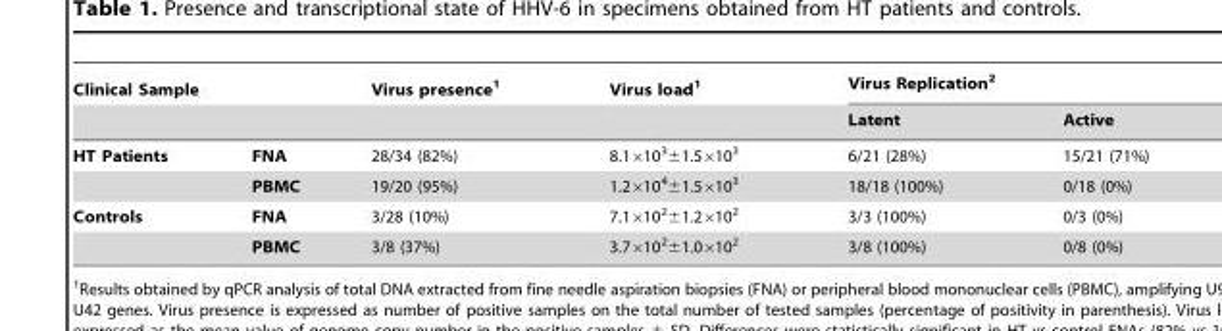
<table><thead><tr><td colspan="2">Clinical Sample</td><td rowspan="2">Virus presence<sup>1</sup></td><td rowspan="2">Virus load<sup>1</sup></td><td colspan="2">Virus Replication<sup>2</sup></td></tr><tr><td></td><td></td><td>Latent</td><td>Active</td></tr></thead><tbody><tr><td rowspan="2">HT Patients</td><td>FNA</td><td>28/34 (82%)</td><td>8.1×10<sup>3</sup>±1.5×10<sup>3</sup></td><td>6/21 (28%)</td><td>15/21 (71%)</td></tr><tr><td>PBMC</td><td>19/20 (95%)</td><td>1.2×10<sup>4</sup>±1.5×10<sup>3</sup></td><td>18/18 (100%)</td><td>0/18 (0%)</td></tr><tr><td rowspan="2">Controls</td><td>FNA</td><td>3/28 (10%)</td><td>7.1×10<sup>2</sup>±1.2×10<sup>2</sup></td><td>3/3 (100%)</td><td>0/3 (0%)</td></tr><tr><td>PBMC</td><td>3/8 (37%)</td><td>3.7×10<sup>2</sup>±1.0×10<sup>2</sup></td><td>3/8 (100%)</td><td>0/8 (0%)</td></tr></tbody></table>